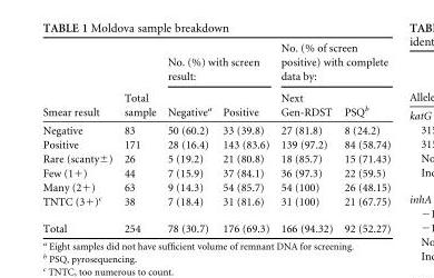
<table><thead><tr><td rowspan="2">Smear result</td><td rowspan="2">Total sample</td><td colspan="2">No. (%) with screen result:</td><td colspan="2">No. (% of screen positive) with complete data by:</td></tr><tr><td>Negative<sup>a</sup></td><td>Positive</td><td>Next Gen-RDST</td><td>PSQ<sup>b</sup></td></tr></thead><tbody><tr><td>Negative</td><td>83</td><td>50 (60.2)</td><td>33 (39.8)</td><td>27 (81.8)</td><td>8 (24.2)</td></tr><tr><td>Positive</td><td>171</td><td>28 (16.4)</td><td>143 (83.6)</td><td>139 (97.2)</td><td>84 (58.74)</td></tr><tr><td>Rare (scanty±)</td><td>26</td><td>5 (19.2)</td><td>21 (80.8)</td><td>18 (85.7)</td><td>15 (71.43)</td></tr><tr><td>Few (1+)</td><td>44</td><td>7 (15.9)</td><td>37 (84.1)</td><td>36 (97.3)</td><td>22 (59.5)</td></tr><tr><td>Many (2+)</td><td>63</td><td>9 (14.3)</td><td>54 (85.7)</td><td>54 (100)</td><td>26 (48.15)</td></tr><tr><td>TNTC (3+)<sup>c</sup></td><td>38</td><td>7 (18.4)</td><td>31 (81.6)</td><td>31 (100)</td><td>21 (67.75)</td></tr><tr><td>Total</td><td>254</td><td>78 (30.7)</td><td>176 (69.3)</td><td>166 (94.32)</td><td>92 (52.27)</td></tr></tbody></table>